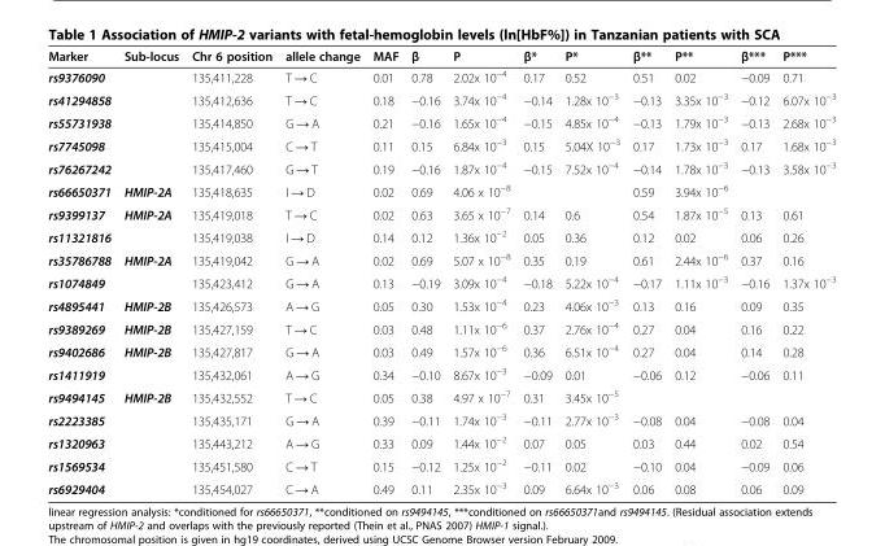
<table><thead><tr><td>Marker</td><td>Sub-locus</td><td>Chr 6 position</td><td>allele change</td><td>MAF</td><td>β</td><td>P</td><td>β*</td><td>P*</td><td>β**</td><td>P**</td><td>β***</td><td>P***</td></tr></thead><tbody><tr><td>rs9376090</td><td></td><td>135,411,228</td><td>T → C</td><td>0.01</td><td>0.78</td><td>2.02x 10<sup>−4</sup></td><td>0.17</td><td>0.52</td><td>0.51</td><td>0.02</td><td>−0.09</td><td>0.71</td></tr><tr><td>rs41294858</td><td></td><td>135,412,636</td><td>T → C</td><td>0.18</td><td>−0.16</td><td>3.74x 10<sup>−4</sup></td><td>−0.14</td><td>1.28x 10<sup>−3</sup></td><td>−0.13</td><td>3.35x 10<sup>−3</sup></td><td>−0.12</td><td>6.07x 10<sup>−3</sup></td></tr><tr><td>rs55731938</td><td></td><td>135,414,850</td><td>G → A</td><td>0.21</td><td>−0.16</td><td>1.65x 10<sup>−4</sup></td><td>−0.15</td><td>4.85x 10<sup>−4</sup></td><td>−0.13</td><td>1.79x 10<sup>−3</sup></td><td>−0.13</td><td>2.68x 10<sup>−3</sup></td></tr><tr><td>rs7745098</td><td></td><td>135,415,004</td><td>C → T</td><td>0.11</td><td>0.15</td><td>6.84x 10<sup>−3</sup></td><td>0.15</td><td>5.04X 10<sup>−3</sup></td><td>0.17</td><td>1.73x 10<sup>−3</sup></td><td>0.17</td><td>1.68x 10<sup>−3</sup></td></tr><tr><td>rs76267242</td><td></td><td>135,417,460</td><td>G → T</td><td>0.19</td><td>−0.16</td><td>1.87x 10<sup>−4</sup></td><td>−0.15</td><td>7.52x 10<sup>−4</sup></td><td>−0.14</td><td>1.78x 10<sup>−3</sup></td><td>−0.13</td><td>3.58x 10<sup>−3</sup></td></tr><tr><td>rs66650371</td><td>HMIP-2A</td><td>135,418,635</td><td>I → D</td><td>0.02</td><td>0.69</td><td>4.06 x 10<sup>−8</sup></td><td></td><td></td><td>0.59</td><td>3.94x 10<sup>−6</sup></td><td></td><td></td></tr><tr><td>rs9399137</td><td>HMIP-2A</td><td>135,419,018</td><td>T → C</td><td>0.02</td><td>0.63</td><td>3.65 x 10<sup>−7</sup></td><td>0.14</td><td>0.6</td><td>0.54</td><td>1.87x 10<sup>−5</sup></td><td>0.13</td><td>0.61</td></tr><tr><td>rs11321816</td><td></td><td>135,419,038</td><td>I → D</td><td>0.14</td><td>0.12</td><td>1.36x 10<sup>−2</sup></td><td>0.05</td><td>0.36</td><td>0.12</td><td>0.02</td><td>0.06</td><td>0.26</td></tr><tr><td>rs35786788</td><td>HMIP-2A</td><td>135,419,042</td><td>G → A</td><td>0.02</td><td>0.69</td><td>5.07 x 10<sup>−8</sup></td><td>0.35</td><td>0.19</td><td>0.61</td><td>2.44x 10<sup>−6</sup></td><td>0.37</td><td>0.16</td></tr><tr><td>rs1074849</td><td></td><td>135,423,412</td><td>G → A</td><td>0.13</td><td>−0.19</td><td>3.09x 10<sup>−4</sup></td><td>−0.18</td><td>5.22x 10<sup>−4</sup></td><td>−0.17</td><td>1.11x 10<sup>−3</sup></td><td>−0.16</td><td>1.37x 10<sup>−3</sup></td></tr><tr><td>rs4895441</td><td>HMIP-2B</td><td>135,426,573</td><td>A → G</td><td>0.05</td><td>0.30</td><td>1.53x 10<sup>−4</sup></td><td>0.23</td><td>4.06x 10<sup>−3</sup></td><td>0.13</td><td>0.16</td><td>0.09</td><td>0.35</td></tr><tr><td>rs9389269</td><td>HMIP-2B</td><td>135,427,159</td><td>T → C</td><td>0.03</td><td>0.48</td><td>1.11x 10<sup>−6</sup></td><td>0.37</td><td>2.76x 10<sup>−4</sup></td><td>0.27</td><td>0.04</td><td>0.16</td><td>0.22</td></tr><tr><td>rs9402686</td><td>HMIP-2B</td><td>135,427,817</td><td>G → A</td><td>0.03</td><td>0.49</td><td>1.57x 10<sup>−6</sup></td><td>0.36</td><td>6.51x 10<sup>−4</sup></td><td>0.27</td><td>0.04</td><td>0.14</td><td>0.28</td></tr><tr><td>rs1411919</td><td></td><td>135,432,061</td><td>A → G</td><td>0.34</td><td>−0.10</td><td>8.67x 10<sup>−3</sup></td><td>−0.09</td><td>0.01</td><td>−0.06</td><td>0.12</td><td>−0.06</td><td>0.11</td></tr><tr><td>rs9494145</td><td>HMIP-2B</td><td>135,432,552</td><td>T → C</td><td>0.05</td><td>0.38</td><td>4.97 x 10<sup>−7</sup></td><td>0.31</td><td>3.45x 10<sup>−5</sup></td><td></td><td></td><td></td><td></td></tr><tr><td>rs2223385</td><td></td><td>135,435,171</td><td>G → A</td><td>0.39</td><td>−0.11</td><td>1.74x 10<sup>−3</sup></td><td>−0.11</td><td>2.77x 10<sup>−3</sup></td><td>−0.08</td><td>0.04</td><td>−0.08</td><td>0.04</td></tr><tr><td>rs1320963</td><td></td><td>135,443,212</td><td>A → G</td><td>0.33</td><td>0.09</td><td>1.44x 10<sup>−2</sup></td><td>0.07</td><td>0.05</td><td>0.03</td><td>0.44</td><td>0.02</td><td>0.54</td></tr><tr><td>rs1569534</td><td></td><td>135,451,580</td><td>C → T</td><td>0.15</td><td>−0.12</td><td>1.25x 10<sup>−2</sup></td><td>−0.11</td><td>0.02</td><td>−0.10</td><td>0.04</td><td>−0.09</td><td>0.06</td></tr><tr><td>rs6929404</td><td></td><td>135,454,027</td><td>C → A</td><td>0.49</td><td>0.11</td><td>2.35x 10<sup>−3</sup></td><td>0.09</td><td>6.64x 10<sup>−3</sup></td><td>0.06</td><td>0.08</td><td>0.06</td><td>0.09</td></tr></tbody></table>